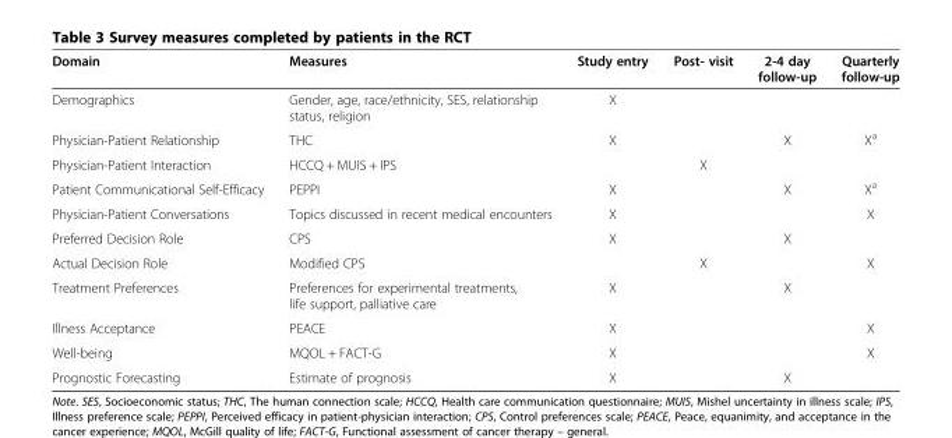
<table><thead><tr><td>Domain</td><td>Measures</td><td>Study entry</td><td>Post- visit</td><td>2-4 day follow-up</td><td>Quarterly follow-up</td></tr></thead><tbody><tr><td>Demographics</td><td>Gender, age, race/ethnicity, SES, relationship status, religion</td><td>X</td><td></td><td></td><td></td></tr><tr><td>Physician-Patient Relationship</td><td>THC</td><td>X</td><td></td><td>X</td><td>X<sup>a</sup></td></tr><tr><td>Physician-Patient Interaction</td><td>HCCQ + MUIS + IPS</td><td></td><td>X</td><td></td><td></td></tr><tr><td>Patient Communicational Self-Efficacy</td><td>PEPPI</td><td>X</td><td></td><td>X</td><td>X<sup>a</sup></td></tr><tr><td>Physician-Patient Conversations</td><td>Topics discussed in recent medical encounters</td><td>X</td><td></td><td></td><td>X</td></tr><tr><td>Preferred Decision Role</td><td>CPS</td><td>X</td><td></td><td>X</td><td></td></tr><tr><td>Actual Decision Role</td><td>Modified CPS</td><td></td><td>X</td><td></td><td>X</td></tr><tr><td>Treatment Preferences</td><td>Preferences for experimental treatments, life support, palliative care</td><td>X</td><td></td><td>X</td><td></td></tr><tr><td>Illness Acceptance</td><td>PEACE</td><td>X</td><td></td><td></td><td>X</td></tr><tr><td>Well-being</td><td>MQOL + FACT-G</td><td>X</td><td></td><td></td><td>X</td></tr><tr><td>Prognostic Forecasting</td><td>Estimate of prognosis</td><td>X</td><td></td><td>X</td><td></td></tr></tbody></table>